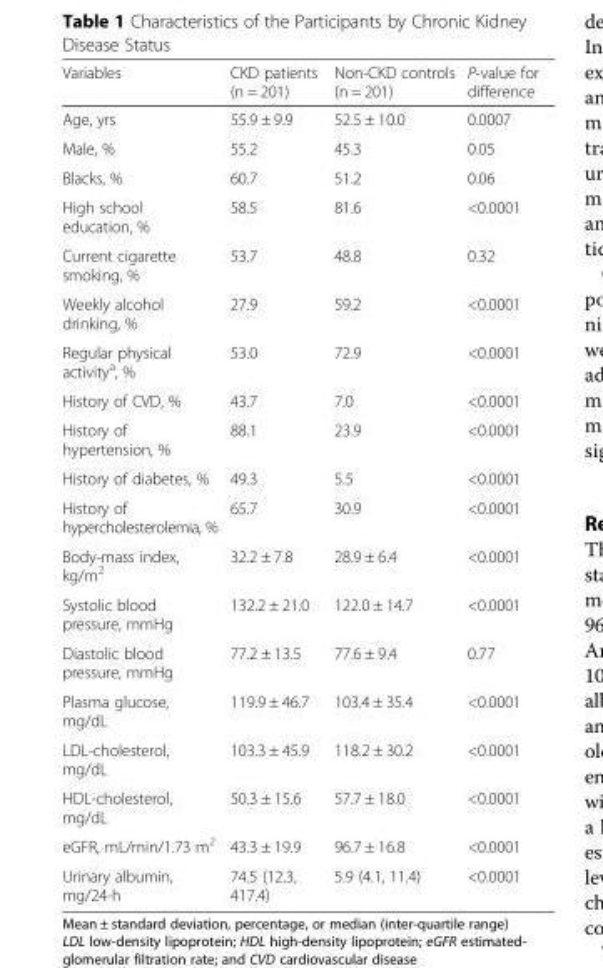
<table><thead><tr><td>Variables</td><td>CKD patients (n = 201)</td><td>Non-CKD controls (n = 201)</td><td>P-value for difference</td></tr></thead><tbody><tr><td>Age, yrs</td><td>55.9 ± 9.9</td><td>52.5 ± 10.0</td><td>0.0007</td></tr><tr><td>Male, %</td><td>55.2</td><td>45.3</td><td>0.05</td></tr><tr><td>Blacks, %</td><td>60.7</td><td>51.2</td><td>0.06</td></tr><tr><td>High school education, %</td><td>58.5</td><td>81.6</td><td>&lt;0.0001</td></tr><tr><td>Current cigarette smoking, %</td><td>53.7</td><td>48.8</td><td>0.32</td></tr><tr><td>Weekly alcohol drinking, %</td><td>27.9</td><td>59.2</td><td>&lt;0.0001</td></tr><tr><td>Regular physical activity<sup>a</sup>, %</td><td>53.0</td><td>72.9</td><td>&lt;0.0001</td></tr><tr><td>History of CVD, %</td><td>43.7</td><td>7.0</td><td>&lt;0.0001</td></tr><tr><td>History of hypertension, %</td><td>88.1</td><td>23.9</td><td>&lt;0.0001</td></tr><tr><td>History of diabetes, %</td><td>49.3</td><td>5.5</td><td>&lt;0.0001</td></tr><tr><td>History of hypercholesterolemia, %</td><td>65.7</td><td>30.9</td><td>&lt;0.0001</td></tr><tr><td>Body-mass index, kg/m<sup>2</sup></td><td>32.2 ± 7.8</td><td>28.9 ± 6.4</td><td>&lt;0.0001</td></tr><tr><td>Systolic blood pressure, mmHg</td><td>132.2 ± 21.0</td><td>122.0 ± 14.7</td><td>&lt;0.0001</td></tr><tr><td>Diastolic blood pressure, mmHg</td><td>77.2 ± 13.5</td><td>77.6 ± 9.4</td><td>0.77</td></tr><tr><td>Plasma glucose, mg/dL</td><td>119.9 ± 46.7</td><td>103.4 ± 35.4</td><td>&lt;0.0001</td></tr><tr><td>LDL-cholesterol, mg/dL</td><td>103.3 ± 45.9</td><td>118.2 ± 30.2</td><td>&lt;0.0001</td></tr><tr><td>HDL-cholesterol, mg/dL</td><td>50.3 ± 15.6</td><td>57.7 ± 18.0</td><td>&lt;0.0001</td></tr><tr><td>eGFR, mL/min/1.73 m<sup>2</sup></td><td>43.3 ± 19.9</td><td>96.7 ± 16.8</td><td>&lt;0.0001</td></tr><tr><td>Urinary albumin, mg/24-h</td><td>74.5 (12.3, 417.4)</td><td>5.9 (4.1, 11.4)</td><td>&lt;0.0001</td></tr></tbody></table>